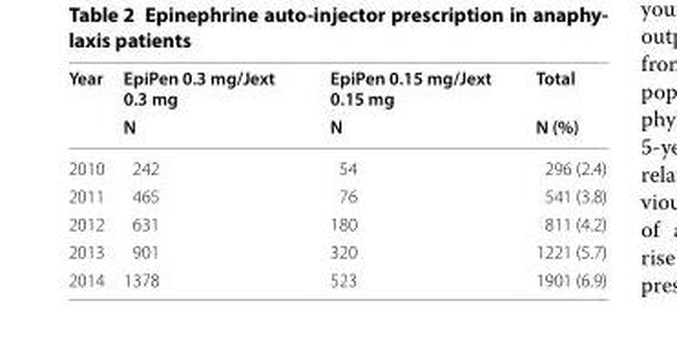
<table><thead><tr><td rowspan="2">Year</td><td rowspan="2">EpiPen 0.3 mg/Jext 0.3 mg N</td><td rowspan="2">EpiPen 0.15 mg/Jext 0.15 mg N</td><td rowspan="2">Total N (%)</td></tr><tr></tr></thead><tbody><tr><td>2010</td><td>242</td><td>54</td><td>296 (2.4)</td></tr><tr><td>2011</td><td>465</td><td>76</td><td>541 (3.8)</td></tr><tr><td>2012</td><td>631</td><td>180</td><td>811 (4.2)</td></tr><tr><td>2013</td><td>901</td><td>320</td><td>1221 (5.7)</td></tr><tr><td>2014</td><td>1378</td><td>523</td><td>1901 (6.9)</td></tr></tbody></table>